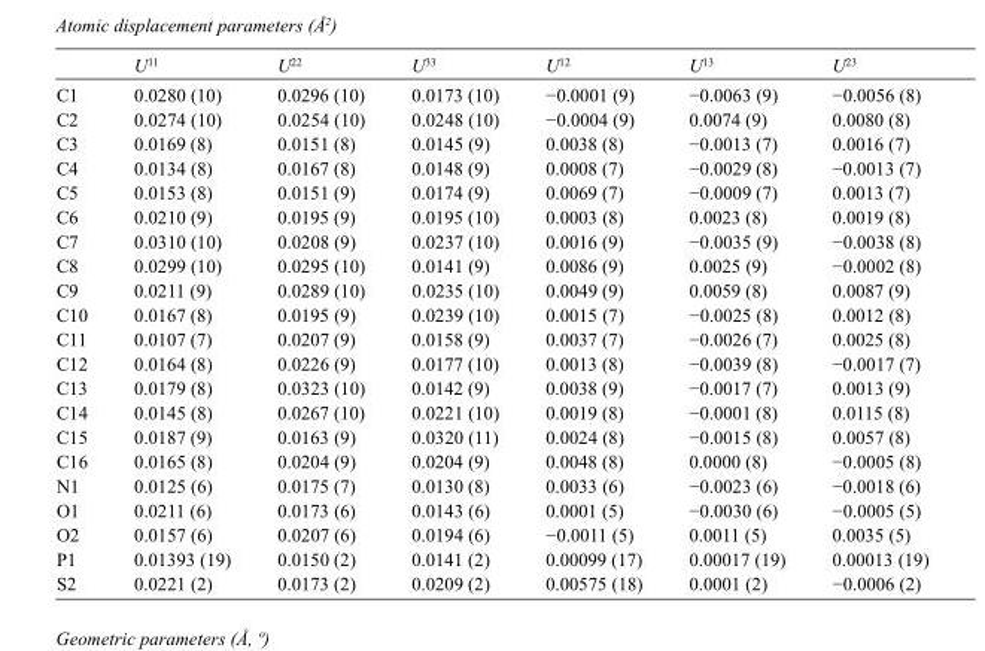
<table><thead><tr><td></td><td>U<sup>11</sup></td><td>U<sup>22</sup></td><td>U<sup>33</sup></td><td>U<sup>12</sup></td><td>U<sup>13</sup></td><td>U<sup>23</sup></td></tr></thead><tbody><tr><td>C1</td><td>0.0280 (10)</td><td>0.0296 (10)</td><td>0.0173 (10)</td><td>−0.0001 (9)</td><td>−0.0063 (9)</td><td>−0.0056 (8)</td></tr><tr><td>C2</td><td>0.0274 (10)</td><td>0.0254 (10)</td><td>0.0248 (10)</td><td>−0.0004 (9)</td><td>0.0074 (9)</td><td>0.0080 (8)</td></tr><tr><td>C3</td><td>0.0169 (8)</td><td>0.0151 (8)</td><td>0.0145 (9)</td><td>0.0038 (8)</td><td>−0.0013 (7)</td><td>0.0016 (7)</td></tr><tr><td>C4</td><td>0.0134 (8)</td><td>0.0167 (8)</td><td>0.0148 (9)</td><td>0.0008 (7)</td><td>−0.0029 (8)</td><td>−0.0013 (7)</td></tr><tr><td>C5</td><td>0.0153 (8)</td><td>0.0151 (9)</td><td>0.0174 (9)</td><td>0.0069 (7)</td><td>−0.0009 (7)</td><td>0.0013 (7)</td></tr><tr><td>C6</td><td>0.0210 (9)</td><td>0.0195 (9)</td><td>0.0195 (10)</td><td>0.0003 (8)</td><td>0.0023 (8)</td><td>0.0019 (8)</td></tr><tr><td>C7</td><td>0.0310 (10)</td><td>0.0208 (9)</td><td>0.0237 (10)</td><td>0.0016 (9)</td><td>−0.0035 (9)</td><td>−0.0038 (8)</td></tr><tr><td>C8</td><td>0.0299 (10)</td><td>0.0295 (10)</td><td>0.0141 (9)</td><td>0.0086 (9)</td><td>0.0025 (9)</td><td>−0.0002 (8)</td></tr><tr><td>C9</td><td>0.0211 (9)</td><td>0.0289 (10)</td><td>0.0235 (10)</td><td>0.0049 (9)</td><td>0.0059 (8)</td><td>0.0087 (9)</td></tr><tr><td>C10</td><td>0.0167 (8)</td><td>0.0195 (9)</td><td>0.0239 (10)</td><td>0.0015 (7)</td><td>−0.0025 (8)</td><td>0.0012 (8)</td></tr><tr><td>C11</td><td>0.0107 (7)</td><td>0.0207 (9)</td><td>0.0158 (9)</td><td>0.0037 (7)</td><td>−0.0026 (7)</td><td>0.0025 (8)</td></tr><tr><td>C12</td><td>0.0164 (8)</td><td>0.0226 (9)</td><td>0.0177 (10)</td><td>0.0013 (8)</td><td>−0.0039 (8)</td><td>−0.0017 (7)</td></tr><tr><td>C13</td><td>0.0179 (8)</td><td>0.0323 (10)</td><td>0.0142 (9)</td><td>0.0038 (9)</td><td>−0.0017 (7)</td><td>0.0013 (9)</td></tr><tr><td>C14</td><td>0.0145 (8)</td><td>0.0267 (10)</td><td>0.0221 (10)</td><td>0.0019 (8)</td><td>−0.0001 (8)</td><td>0.0115 (8)</td></tr><tr><td>C15</td><td>0.0187 (9)</td><td>0.0163 (9)</td><td>0.0320 (11)</td><td>0.0024 (8)</td><td>−0.0015 (8)</td><td>0.0057 (8)</td></tr><tr><td>C16</td><td>0.0165 (8)</td><td>0.0204 (9)</td><td>0.0204 (9)</td><td>0.0048 (8)</td><td>0.0000 (8)</td><td>−0.0005 (8)</td></tr><tr><td>N1</td><td>0.0125 (6)</td><td>0.0175 (7)</td><td>0.0130 (8)</td><td>0.0033 (6)</td><td>−0.0023 (6)</td><td>−0.0018 (6)</td></tr><tr><td>O1</td><td>0.0211 (6)</td><td>0.0173 (6)</td><td>0.0143 (6)</td><td>0.0001 (5)</td><td>−0.0030 (6)</td><td>−0.0005 (5)</td></tr><tr><td>O2</td><td>0.0157 (6)</td><td>0.0207 (6)</td><td>0.0194 (6)</td><td>−0.0011 (5)</td><td>0.0011 (5)</td><td>0.0035 (5)</td></tr><tr><td>P1</td><td>0.01393 (19)</td><td>0.0150 (2)</td><td>0.0141 (2)</td><td>0.00099 (17)</td><td>0.00017 (19)</td><td>0.00013 (19)</td></tr><tr><td>S2</td><td>0.0221 (2)</td><td>0.0173 (2)</td><td>0.0209 (2)</td><td>0.00575 (18)</td><td>0.0001 (2)</td><td>−0.0006 (2)</td></tr></tbody></table>